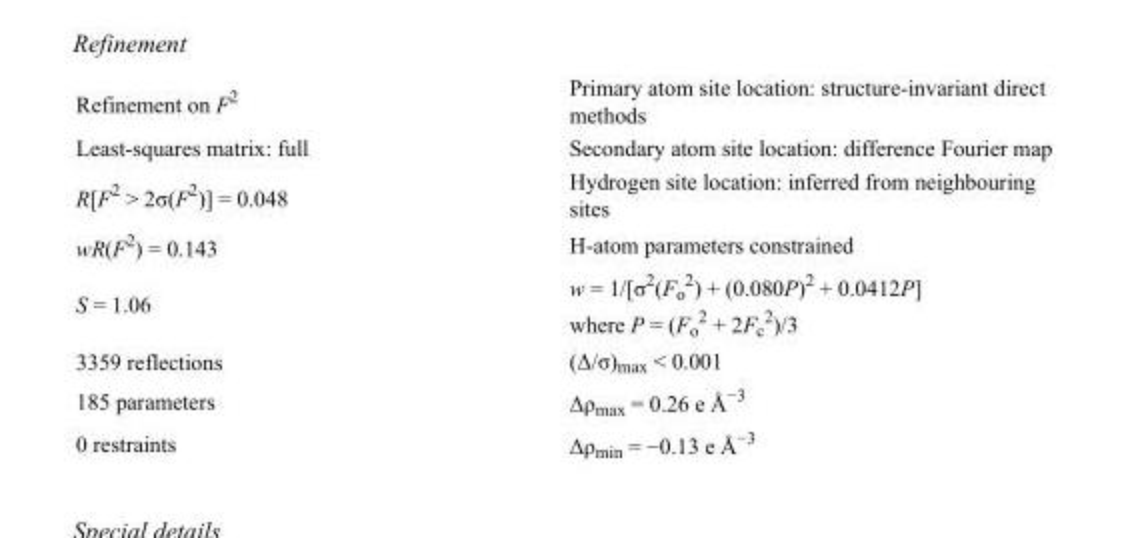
<table><tbody><tr><td>Refinement on F<sup>2</sup></td><td>Primary atom site location: structure-invariant direct methods</td></tr><tr><td>Least-squares matrix: full</td><td>Secondary atom site location: difference Fourier map</td></tr><tr><td>R[F<sup>2</sup> &gt; 2σ(F<sup>2</sup>)] = 0.048</td><td>Hydrogen site location: inferred from neighbouring sites</td></tr><tr><td>wR(F<sup>2</sup>) = 0.143</td><td>H-atom parameters constrained</td></tr><tr><td>S = 1.06</td><td>w = 1/[σ<sup>2</sup>(F<sub>o</sub> <sup>2</sup>) + (0.080P)<sup>2</sup> + 0.0412P] where P = (F<sub>o</sub> <sup>2</sup> + 2F<sub>c</sub> <sup>2</sup>)/3</td></tr><tr><td>3359 reflections</td><td>(Δ/σ)<sub>max</sub> &lt; 0.001</td></tr><tr><td>185 parameters</td><td>Δρ<sub>max</sub> = 0.26 e Å<sup>−3</sup></td></tr><tr><td>0 restraints</td><td>Δρ<sub>min</sub> = −0.13 e Å<sup>−3</sup></td></tr></tbody></table>